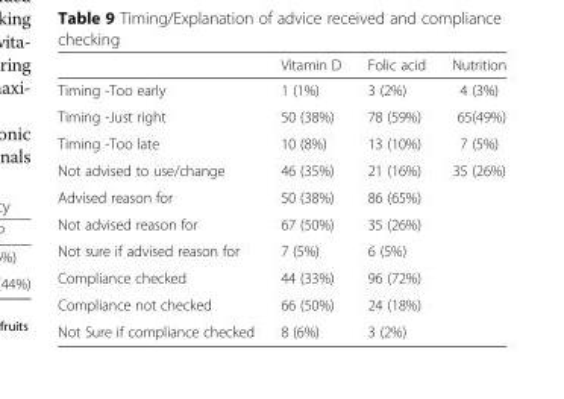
<table><thead><tr><td></td><td>Vitamin D</td><td>Folic acid</td><td>Nutrition</td></tr></thead><tbody><tr><td>Timing -Too early</td><td>1 (1%)</td><td>3 (2%)</td><td>4 (3%)</td></tr><tr><td>Timing -Just right</td><td>50 (38%)</td><td>78 (59%)</td><td>65(49%)</td></tr><tr><td>Timing -Too late</td><td>10 (8%)</td><td>13 (10%)</td><td>7 (5%)</td></tr><tr><td>Not advised to use/change</td><td>46 (35%)</td><td>21 (16%)</td><td>35 (26%)</td></tr><tr><td>Advised reason for</td><td>50 (38%)</td><td>86 (65%)</td><td></td></tr><tr><td>Not advised reason for</td><td>67 (50%)</td><td>35 (26%)</td><td></td></tr><tr><td>Not sure if advised reason for</td><td>7 (5%)</td><td>6 (5%)</td><td></td></tr><tr><td>Compliance checked</td><td>44 (33%)</td><td>96 (72%)</td><td></td></tr><tr><td>Compliance not checked</td><td>66 (50%)</td><td>24 (18%)</td><td></td></tr><tr><td>Not Sure if compliance checked</td><td>8 (6%)</td><td>3 (2%)</td><td></td></tr></tbody></table>